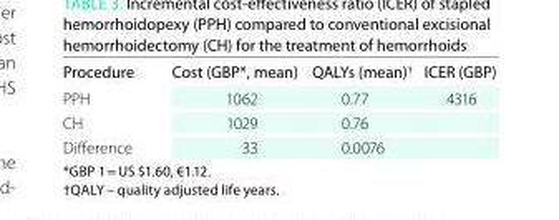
<table><thead><tr><td>Procedure</td><td>Cost (GBP*, mean)</td><td>QalYs (mean)<sup>†</sup></td><td>ICeR (GBP)</td></tr></thead><tbody><tr><td>PPH</td><td>1062</td><td>0.77</td><td>4316</td></tr><tr><td>CH</td><td>1029</td><td>0.76</td><td></td></tr><tr><td>Difference</td><td>33</td><td>0.0076</td><td></td></tr></tbody></table>